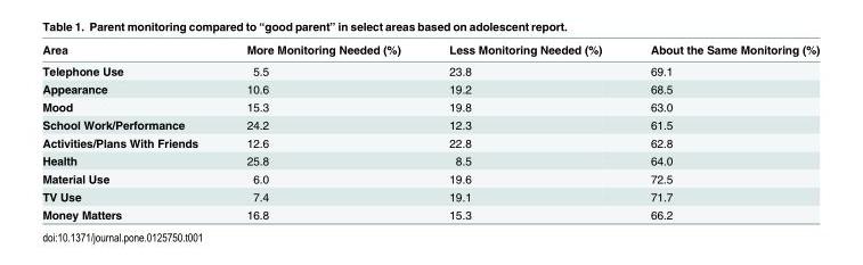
<table><thead><tr><td>Area</td><td>More Monitoring Needed (%)</td><td>Less Monitoring Needed (%)</td><td>About the Same Monitoring (%)</td></tr></thead><tbody><tr><td>Telephone Use</td><td>5.5</td><td>23.8</td><td>69.1</td></tr><tr><td>Appearance</td><td>10.6</td><td>19.2</td><td>68.5</td></tr><tr><td>Mood</td><td>15.3</td><td>19.8</td><td>63.0</td></tr><tr><td>School Work/Performance</td><td>24.2</td><td>12.3</td><td>61.5</td></tr><tr><td>Activities/Plans With Friends</td><td>12.6</td><td>22.8</td><td>62.8</td></tr><tr><td>Health</td><td>25.8</td><td>8.5</td><td>64.0</td></tr><tr><td>Material Use</td><td>6.0</td><td>19.6</td><td>72.5</td></tr><tr><td>TV Use</td><td>7.4</td><td>19.1</td><td>71.7</td></tr><tr><td>Money Matters</td><td>16.8</td><td>15.3</td><td>66.2</td></tr></tbody></table>